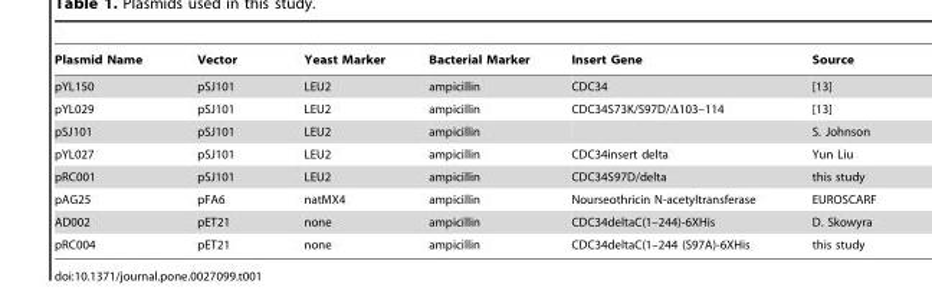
<table><thead><tr><td>Plasmid Name</td><td>Vector</td><td>Yeast Marker</td><td>Bacterial Marker</td><td>Insert Gene</td><td>Source</td></tr></thead><tbody><tr><td>pYL150</td><td>pSJ101</td><td>LEU2</td><td>ampicillin</td><td>CDC34</td><td>[13]</td></tr><tr><td>pYL029</td><td>pSJ101</td><td>LEU2</td><td>ampicillin</td><td>CDC34S73K/S97D/Δ103–114</td><td>[13]</td></tr><tr><td>pSJ101</td><td>pSJ101</td><td>LEU2</td><td>ampicillin</td><td></td><td>S. Johnson</td></tr><tr><td>pYL027</td><td>pSJ101</td><td>LEU2</td><td>ampicillin</td><td>CDC34insert delta</td><td>Yun Liu</td></tr><tr><td>pRC001</td><td>pSJ101</td><td>LEU2</td><td>ampicillin</td><td>CDC34S97D/delta</td><td>this study</td></tr><tr><td>pAG25</td><td>pFA6</td><td>natMX4</td><td>ampicillin</td><td>Nourseothricin N-acetyltransferase</td><td>EUROSCARF</td></tr><tr><td>AD002</td><td>pET21</td><td>none</td><td>ampicillin</td><td>CDC34deltaC(1–244)-6XHis</td><td>D. Skowyra</td></tr><tr><td>pRC004</td><td>pET21</td><td>none</td><td>ampicillin</td><td>CDC34deltaC(1–244 (S97A)-6XHis</td><td>this study</td></tr></tbody></table>